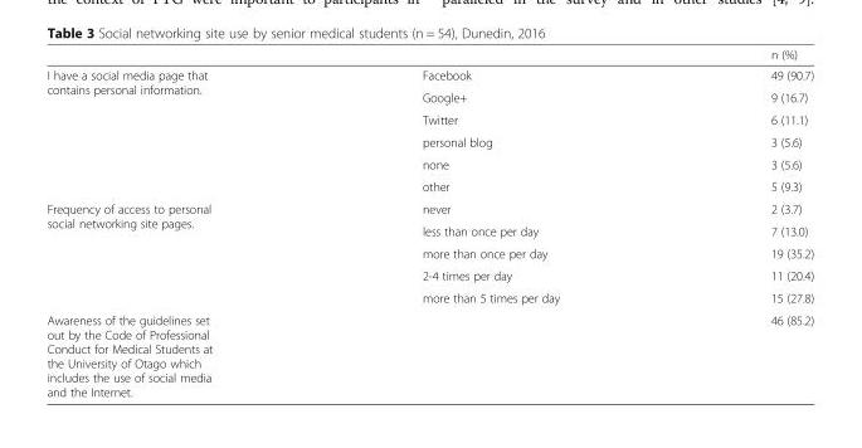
<table><thead><tr><td></td><td></td><td>n (%)</td></tr></thead><tbody><tr><td rowspan="6">I have a social media page that contains personal information.</td><td>Facebook</td><td>49 (90.7)</td></tr><tr><td>Google+</td><td>9 (16.7)</td></tr><tr><td>Twitter</td><td>6 (11.1)</td></tr><tr><td>personal blog</td><td>3 (5.6)</td></tr><tr><td>none</td><td>3 (5.6)</td></tr><tr><td>other</td><td>5 (9.3)</td></tr><tr><td rowspan="5">Frequency of access to personal social networking site pages.</td><td>never</td><td>2 (3.7)</td></tr><tr><td>less than once per day</td><td>7 (13.0)</td></tr><tr><td>more than once per day</td><td>19 (35.2)</td></tr><tr><td>2-4 times per day</td><td>11 (20.4)</td></tr><tr><td>more than 5 times per day</td><td>15 (27.8)</td></tr><tr><td colspan="2">Awareness of the guidelines set out by the Code of Professional Conduct for Medical Students at the University of Otago which includes the use of social media and the Internet.</td><td>46 (85.2)</td></tr></tbody></table>